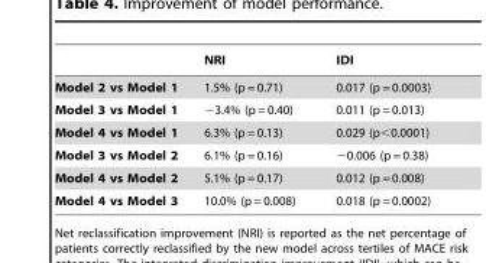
<table><thead><tr><td></td><td>NRI</td><td>IDI</td></tr></thead><tbody><tr><td>Model 2 vs Model 1</td><td>1.5% (p = 0.71)</td><td>0.017 (p = 0.0003)</td></tr><tr><td>Model 3 vs Model 1</td><td>−3.4% (p = 0.40)</td><td>0.011 (p = 0.013)</td></tr><tr><td>Model 4 vs Model 1</td><td>6.3% (p = 0.13)</td><td>0.029 (p&lt;0.0001)</td></tr><tr><td>Model 3 vs Model 2</td><td>6.1% (p = 0.16)</td><td>−0.006 (p = 0.38)</td></tr><tr><td>Model 4 vs Model 2</td><td>5.1% (p = 0.17)</td><td>0.012 (p = 0.008)</td></tr><tr><td>Model 4 vs Model 3</td><td>10.0% (p = 0.008)</td><td>0.018 (p = 0.0002)</td></tr></tbody></table>